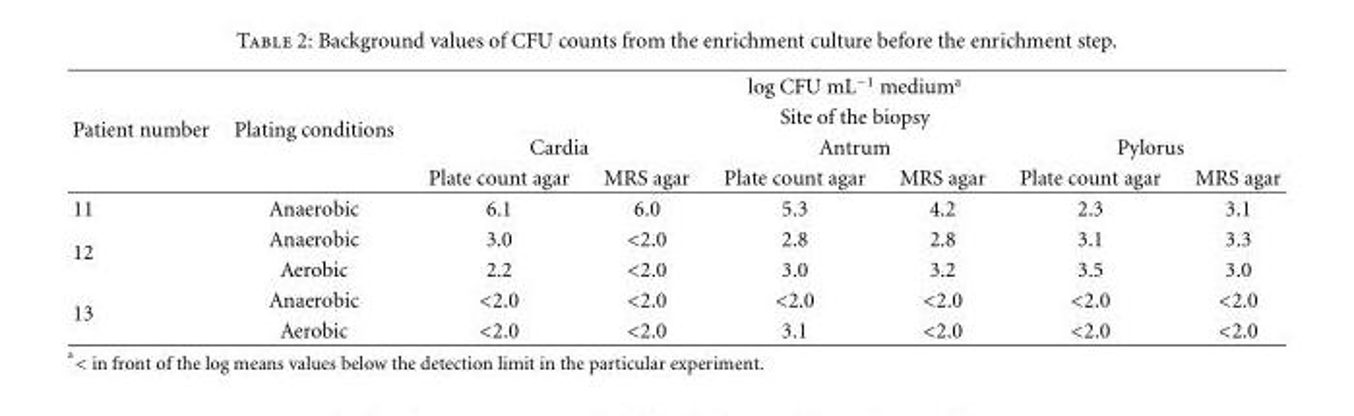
<table><thead><tr><td rowspan="4">Patient number</td><td rowspan="4">Plating conditions</td><td rowspan="2" colspan="6">log CFU mL<sup>−1</sup> medium<sup>a</sup> Site of the biopsy</td></tr><tr></tr><tr><td colspan="2">Cardia</td><td colspan="2">Antrum</td><td colspan="2">Pylorus</td></tr><tr><td>Plate count agar</td><td>MRS agar</td><td>Plate count agar</td><td>MRS agar</td><td>Plate count agar</td><td>MRS agar</td></tr></thead><tbody><tr><td>11</td><td>Anaerobic</td><td>6.1</td><td>6.0</td><td>5.3</td><td>4.2</td><td>2.3</td><td>3.1</td></tr><tr><td rowspan="2">12</td><td>Anaerobic</td><td>3.0</td><td>&lt;2.0</td><td>2.8</td><td>2.8</td><td>3.1</td><td>3.3</td></tr><tr><td>Aerobic</td><td>2.2</td><td>&lt;2.0</td><td>3.0</td><td>3.2</td><td>3.5</td><td>3.0</td></tr><tr><td rowspan="2">13</td><td>Anaerobic</td><td>&lt;2.0</td><td>&lt;2.0</td><td>&lt;2.0</td><td>&lt;2.0</td><td>&lt;2.0</td><td>&lt;2.0</td></tr><tr><td>Aerobic</td><td>&lt;2.0</td><td>&lt;2.0</td><td>3.1</td><td>&lt;2.0</td><td>&lt;2.0</td><td>&lt;2.0</td></tr></tbody></table>